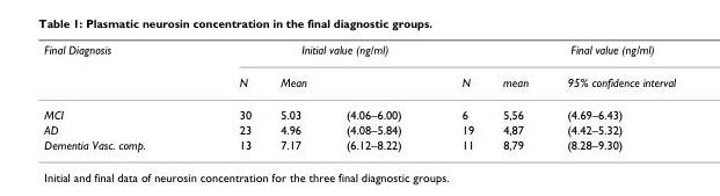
<table><thead><tr><td rowspan="2">Final Diagnosis</td><td colspan="3">Initial value (ng/ml)</td><td colspan="3">Final value (ng/ml)</td></tr><tr><td>N</td><td>Mean</td><td></td><td>N</td><td>mean</td><td>95% confidence interval</td></tr></thead><tbody><tr><td>MCI</td><td>30</td><td>5.03</td><td>(4.06–6.00)</td><td>6</td><td>5,56</td><td>(4.69–6.43)</td></tr><tr><td>AD</td><td>23</td><td>4.96</td><td>(4.08–5.84)</td><td>19</td><td>4,87</td><td>(4.42–5.32)</td></tr><tr><td>Dementia Vasc. comp.</td><td>13</td><td>7.17</td><td>(6.12–8.22)</td><td>11</td><td>8,79</td><td>(8.28–9.30)</td></tr></tbody></table>